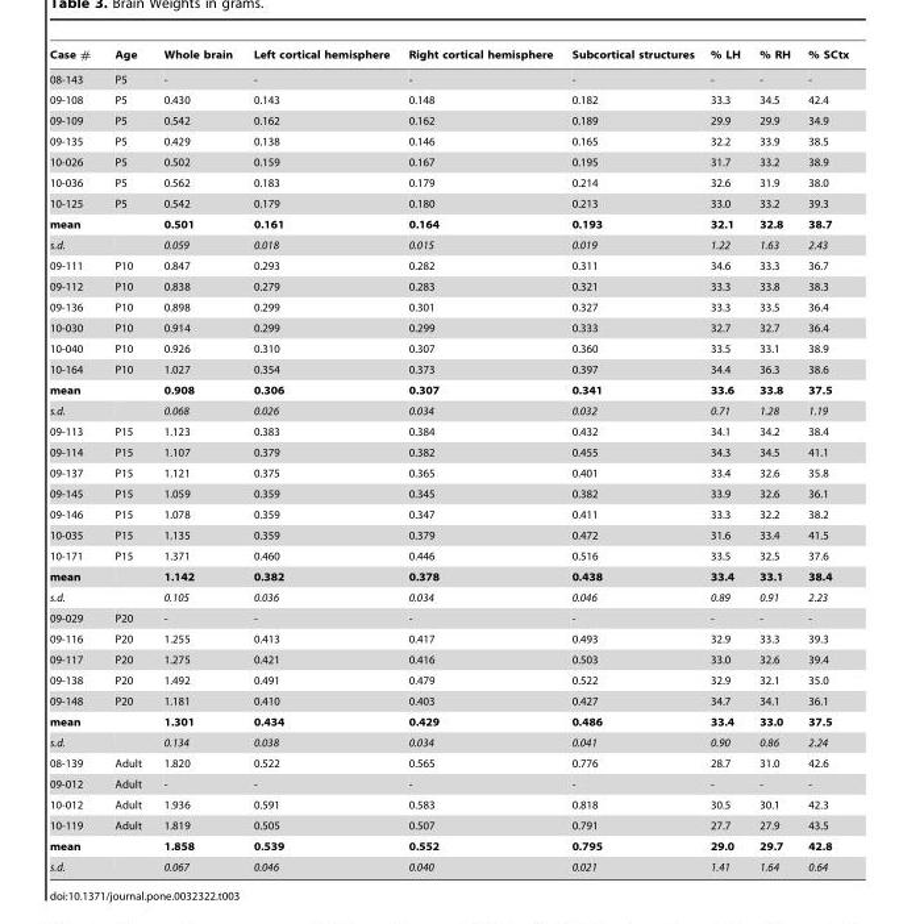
<table><thead><tr><td>Case #</td><td>Age</td><td>Whole brain</td><td>Left cortical hemisphere</td><td>Right cortical hemisphere</td><td>Subcortical structures</td><td>% LH</td><td>% RH</td><td>% SCtx</td></tr></thead><tbody><tr><td>08-143</td><td>P5</td><td>-</td><td>-</td><td>-</td><td>-</td><td>-</td><td>-</td><td>-</td></tr><tr><td>09-108</td><td>P5</td><td>0.430</td><td>0.143</td><td>0.148</td><td>0.182</td><td>33.3</td><td>34.5</td><td>42.4</td></tr><tr><td>09-109</td><td>P5</td><td>0.542</td><td>0.162</td><td>0.162</td><td>0.189</td><td>29.9</td><td>29.9</td><td>34.9</td></tr><tr><td>09-135</td><td>P5</td><td>0.429</td><td>0.138</td><td>0.146</td><td>0.165</td><td>32.2</td><td>33.9</td><td>38.5</td></tr><tr><td>10-026</td><td>P5</td><td>0.502</td><td>0.159</td><td>0.167</td><td>0.195</td><td>31.7</td><td>33.2</td><td>38.9</td></tr><tr><td>10-036</td><td>P5</td><td>0.562</td><td>0.183</td><td>0.179</td><td>0.214</td><td>32.6</td><td>31.9</td><td>38.0</td></tr><tr><td>10-125</td><td>P5</td><td>0.542</td><td>0.179</td><td>0.180</td><td>0.213</td><td>33.0</td><td>33.2</td><td>39.3</td></tr><tr><td>mean</td><td></td><td>0.501</td><td>0.161</td><td>0.164</td><td>0.193</td><td>32.1</td><td>32.8</td><td>38.7</td></tr><tr><td>s.d.</td><td></td><td>0.059</td><td>0.018</td><td>0.015</td><td>0.019</td><td>1.22</td><td>1.63</td><td>2.43</td></tr><tr><td>09-111</td><td>P10</td><td>0.847</td><td>0.293</td><td>0.282</td><td>0.311</td><td>34.6</td><td>33.3</td><td>36.7</td></tr><tr><td>09-112</td><td>P10</td><td>0.838</td><td>0.279</td><td>0.283</td><td>0.321</td><td>33.3</td><td>33.8</td><td>38.3</td></tr><tr><td>09-136</td><td>P10</td><td>0.898</td><td>0.299</td><td>0.301</td><td>0.327</td><td>33.3</td><td>33.5</td><td>36.4</td></tr><tr><td>10-030</td><td>P10</td><td>0.914</td><td>0.299</td><td>0.299</td><td>0.333</td><td>32.7</td><td>32.7</td><td>36.4</td></tr><tr><td>10-040</td><td>P10</td><td>0.926</td><td>0.310</td><td>0.307</td><td>0.360</td><td>33.5</td><td>33.1</td><td>38.9</td></tr><tr><td>10-164</td><td>P10</td><td>1.027</td><td>0.354</td><td>0.373</td><td>0.397</td><td>34.4</td><td>36.3</td><td>38.6</td></tr><tr><td>mean</td><td></td><td>0.908</td><td>0.306</td><td>0.307</td><td>0.341</td><td>33.6</td><td>33.8</td><td>37.5</td></tr><tr><td>s.d.</td><td></td><td>0.068</td><td>0.026</td><td>0.034</td><td>0.032</td><td>0.71</td><td>1.28</td><td>1.19</td></tr><tr><td>09-113</td><td>P15</td><td>1.123</td><td>0.383</td><td>0.384</td><td>0.432</td><td>34.1</td><td>34.2</td><td>38.4</td></tr><tr><td>09-114</td><td>P15</td><td>1.107</td><td>0.379</td><td>0.382</td><td>0.455</td><td>34.3</td><td>34.5</td><td>41.1</td></tr><tr><td>09-137</td><td>P15</td><td>1.121</td><td>0.375</td><td>0.365</td><td>0.401</td><td>33.4</td><td>32.6</td><td>35.8</td></tr><tr><td>09-145</td><td>P15</td><td>1.059</td><td>0.359</td><td>0.345</td><td>0.382</td><td>33.9</td><td>32.6</td><td>36.1</td></tr><tr><td>09-146</td><td>P15</td><td>1.078</td><td>0.359</td><td>0.347</td><td>0.411</td><td>33.3</td><td>32.2</td><td>38.2</td></tr><tr><td>10-035</td><td>P15</td><td>1.135</td><td>0.359</td><td>0.379</td><td>0.472</td><td>31.6</td><td>33.4</td><td>41.5</td></tr><tr><td>10-171</td><td>P15</td><td>1.371</td><td>0.460</td><td>0.446</td><td>0.516</td><td>33.5</td><td>32.5</td><td>37.6</td></tr><tr><td>mean</td><td></td><td>1.142</td><td>0.382</td><td>0.378</td><td>0.438</td><td>33.4</td><td>33.1</td><td>38.4</td></tr><tr><td>s.d.</td><td></td><td>0.105</td><td>0.036</td><td>0.034</td><td>0.046</td><td>0.89</td><td>0.91</td><td>2.23</td></tr><tr><td>09-029</td><td>P20</td><td>-</td><td>-</td><td>-</td><td>-</td><td>-</td><td>-</td><td>-</td></tr><tr><td>09-116</td><td>P20</td><td>1.255</td><td>0.413</td><td>0.417</td><td>0.493</td><td>32.9</td><td>33.3</td><td>39.3</td></tr><tr><td>09-117</td><td>P20</td><td>1.275</td><td>0.421</td><td>0.416</td><td>0.503</td><td>33.0</td><td>32.6</td><td>39.4</td></tr><tr><td>09-138</td><td>P20</td><td>1.492</td><td>0.491</td><td>0.479</td><td>0.522</td><td>32.9</td><td>32.1</td><td>35.0</td></tr><tr><td>09-148</td><td>P20</td><td>1.181</td><td>0.410</td><td>0.403</td><td>0.427</td><td>34.7</td><td>34.1</td><td>36.1</td></tr><tr><td>mean</td><td></td><td>1.301</td><td>0.434</td><td>0.429</td><td>0.486</td><td>33.4</td><td>33.0</td><td>37.5</td></tr><tr><td>s.d.</td><td></td><td>0.134</td><td>0.038</td><td>0.034</td><td>0.041</td><td>0.90</td><td>0.86</td><td>2.24</td></tr><tr><td>08-139</td><td>Adult</td><td>1.820</td><td>0.522</td><td>0.565</td><td>0.776</td><td>28.7</td><td>31.0</td><td>42.6</td></tr><tr><td>09-012</td><td>Adult</td><td>-</td><td>-</td><td>-</td><td>-</td><td>-</td><td>-</td><td>-</td></tr><tr><td>10-012</td><td>Adult</td><td>1.936</td><td>0.591</td><td>0.583</td><td>0.818</td><td>30.5</td><td>30.1</td><td>42.3</td></tr><tr><td>10-119</td><td>Adult</td><td>1.819</td><td>0.505</td><td>0.507</td><td>0.791</td><td>27.7</td><td>27.9</td><td>43.5</td></tr><tr><td>mean</td><td></td><td>1.858</td><td>0.539</td><td>0.552</td><td>0.795</td><td>29.0</td><td>29.7</td><td>42.8</td></tr><tr><td>s.d.</td><td></td><td>0.067</td><td>0.046</td><td>0.040</td><td>0.021</td><td>1.41</td><td>1.64</td><td>0.64</td></tr></tbody></table>